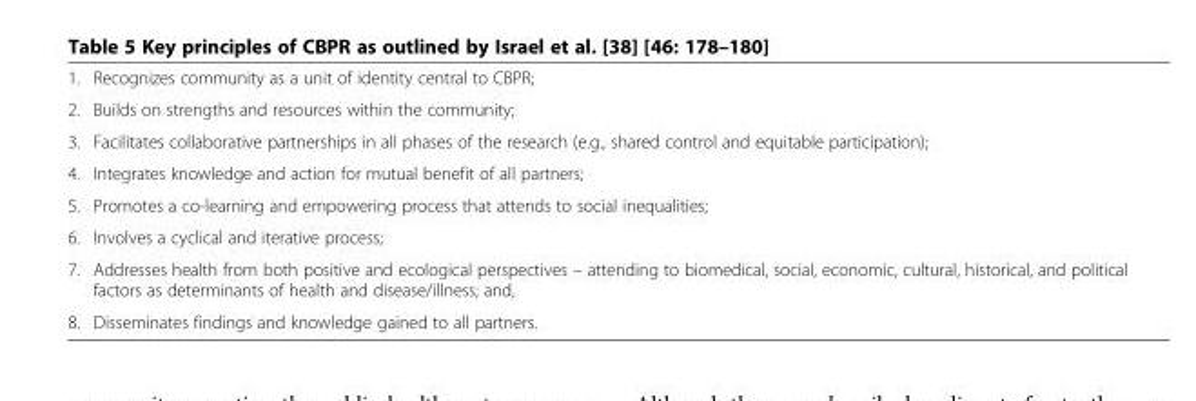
<table><tbody><tr><td>1.</td><td>Recognizes community as a unit of identity central to CBPR;</td></tr><tr><td>2.</td><td>Builds on strengths and resources within the community;</td></tr><tr><td>3.</td><td>Facilitates collaborative partnerships in all phases of the research (e.g., shared control and equitable participation);</td></tr><tr><td>4.</td><td>Integrates knowledge and action for mutual benefit of all partners;</td></tr><tr><td>5.</td><td>Promotes a co-learning and empowering process that attends to social inequalities;</td></tr><tr><td>6.</td><td>Involves a cyclical and iterative process;</td></tr><tr><td>7.</td><td>Addresses health from both positive and ecological perspectives – attending to biomedical, social, economic, cultural, historical, and political factors as determinants of health and disease/illness; and,</td></tr><tr><td>8.</td><td>Disseminates findings and knowledge gained to all partners.</td></tr></tbody></table>